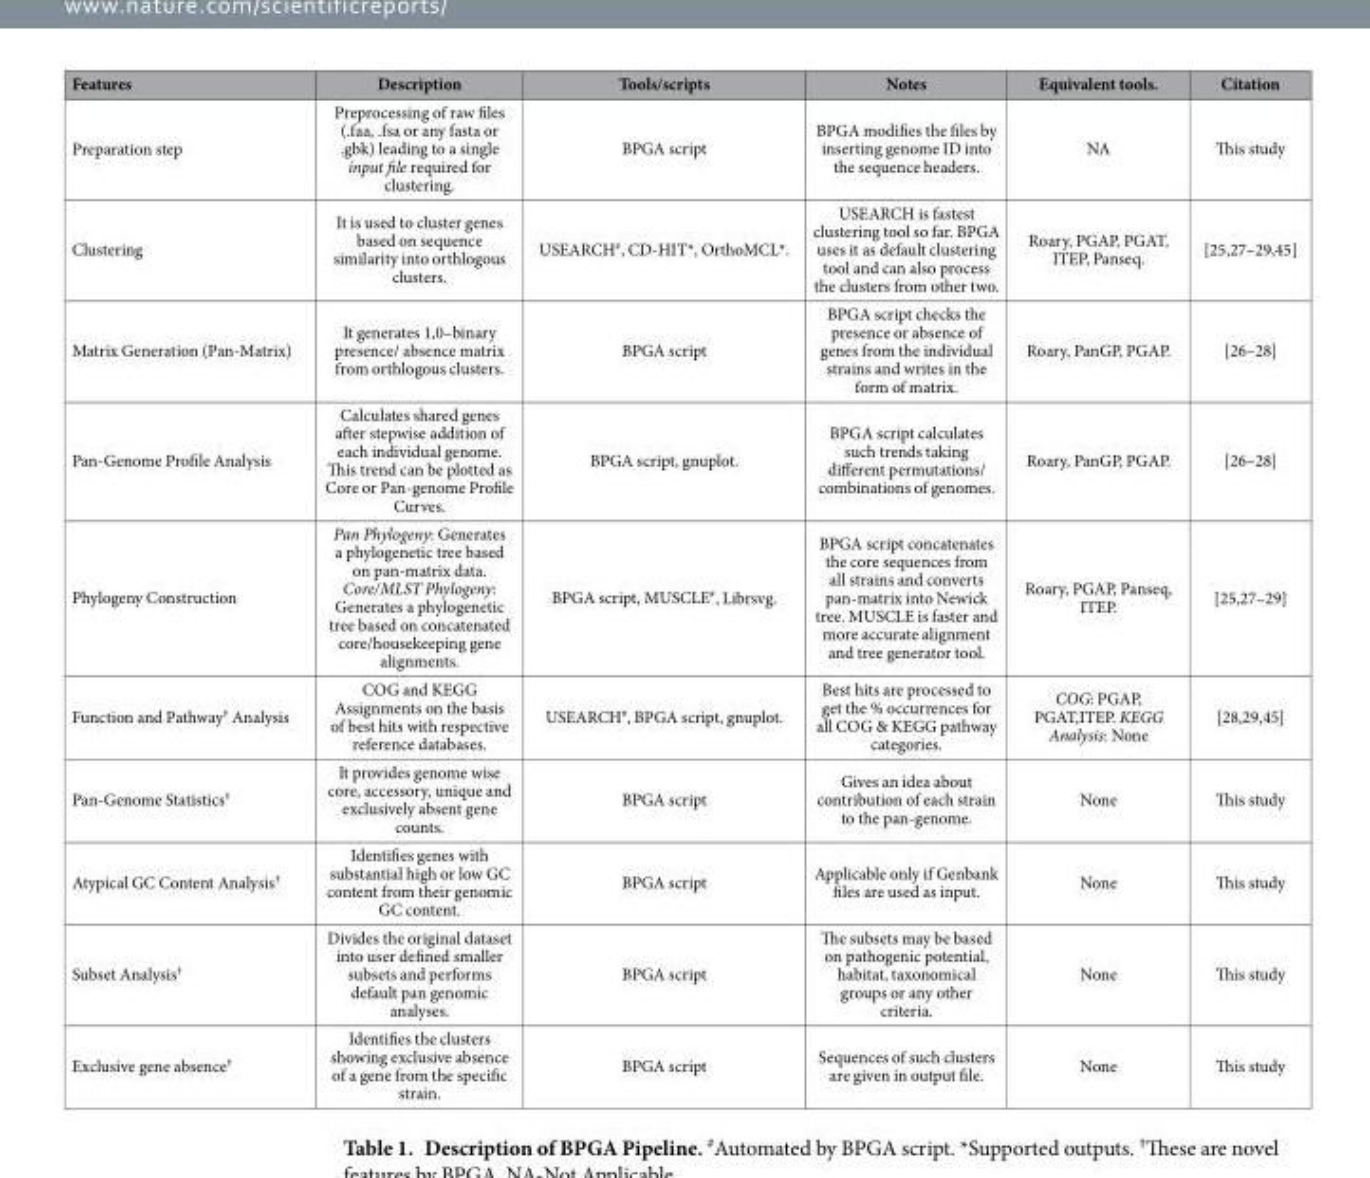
<table><thead><tr><td>Features</td><td>Description</td><td>Tools/scripts</td><td>Notes</td><td>Equivalent tools.</td><td>Citation</td></tr></thead><tbody><tr><td>Preparation step</td><td>Preprocessing of raw files (.faa, .fsa or any fasta or .gbk) leading to a single input file required for clustering.</td><td>BPGA script</td><td>BPGA modifies the files by inserting genome ID into the sequence headers.</td><td>NA</td><td>This study</td></tr><tr><td>Clustering</td><td>It is used to cluster genes based on sequence similarity into orthlogous clusters.</td><td>USEARCH#, CD-HIT*, OrthoMCL*.</td><td>USEARCH is fastest clustering tool so far. BPGA uses it as default clustering tool and can also process the clusters from other two.</td><td>Roary, PGAP, PGAT, ITEP, Panseq.</td><td>[25,27–29,45]</td></tr><tr><td>Matrix Generation (Pan-Matrix)</td><td>It generates 1,0–binary presence/ absence matrix from orthlogous clusters.</td><td>BPGA script</td><td>BPGA script checks the presence or absence of genes from the individual strains and writes in the form of matrix.</td><td>Roary, PanGP, PGAP.</td><td>[26–28]</td></tr><tr><td>Pan-Genome Profile Analysis</td><td>Calculates shared genes after stepwise addition of each individual genome. This trend can be plotted as Core or Pan-genome Profile Curves.</td><td>BPGA script, gnuplot.</td><td>BPGA script calculates such trends taking different permutations/ combinations of genomes.</td><td>Roary, PanGP, PGAP.</td><td>[26–28]</td></tr><tr><td>Phylogeny Construction</td><td>Pan Phylogeny: Generates a phylogenetic tree based on pan-matrix data. Core/MLST Phylogeny: Generates a phylogenetic tree based on concatenated core/housekeeping gene alignments.</td><td>BPGA script, MUSCLE#, Librsvg.</td><td>BPGA script concatenates the core sequences from all strains and converts pan-matrix into Newick tree. MUSCLE is faster and more accurate alignment and tree generator tool.</td><td>Roary, PGAP, Panseq, ITEP.</td><td>[25,27–29]</td></tr><tr><td>Function and Pathway† Analysis</td><td>COG and KEGG Assignments on the basis of best hits with respective reference databases.</td><td>USEARCH#, BPGA script, gnuplot.</td><td>Best hits are processed to get the % occurrences for all COG &amp; KEGG pathway categories.</td><td>COG: PGAP, PGAT,ITEP. KEGG Analysis: None</td><td>[28,<sup>29</sup>,<sup>45</sup>]</td></tr><tr><td>Pan-Genome Statistics†</td><td>It provides genome wise core, accessory, unique and exclusively absent gene counts.</td><td>BPGA script</td><td>Gives an idea about contribution of each strain to the pan-genome.</td><td>None</td><td>This study</td></tr><tr><td>Atypical GC Content Analysis†</td><td>Identifies genes with substantial high or low GC content from their genomic GC content.</td><td>BPGA script</td><td>Applicable only if Genbank files are used as input.</td><td>None</td><td>This study</td></tr><tr><td>Subset Analysis†</td><td>Divides the original dataset into user defined smaller subsets and performs default pan genomic analyses.</td><td>BPGA script</td><td>The subsets may be based on pathogenic potential, habitat, taxonomical groups or any other criteria.</td><td>None</td><td>This study</td></tr><tr><td>Exclusive gene absence†</td><td>Identifies the clusters showing exclusive absence of a gene from the specific strain.</td><td>BPGA script</td><td>Sequences of such clusters are given in output file.</td><td>None</td><td>This study</td></tr></tbody></table>